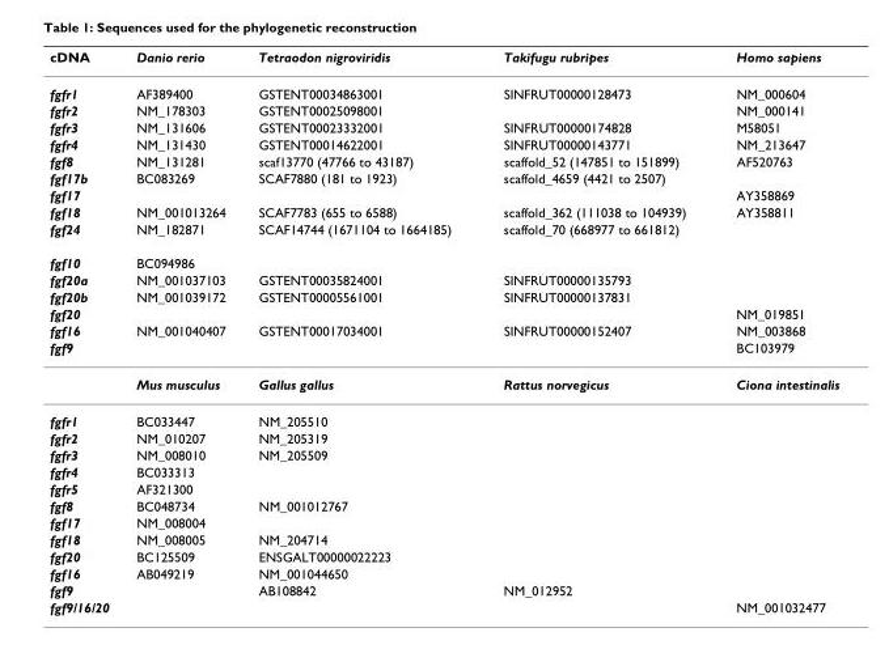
<table><thead><tr><td>cDNA</td><td>Danio rerio</td><td>Tetraodon nigroviridis</td><td>Takifugu rubripes</td><td>Homo sapiens</td></tr></thead><tbody><tr><td>fgfr1</td><td>AF389400</td><td>GSTENT00034863001</td><td>SINFRUT00000128473</td><td>NM_000604</td></tr><tr><td>fgfr2</td><td>NM_178303</td><td>GSTENT00025098001</td><td></td><td>NM_000141</td></tr><tr><td>fgfr3</td><td>NM_131606</td><td>GSTENT00023332001</td><td>SINFRUT00000174828</td><td>M58051</td></tr><tr><td>fgfr4</td><td>NM_131430</td><td>GSTENT00014622001</td><td>SINFRUT00000143771</td><td>NM_213647</td></tr><tr><td>fgf8</td><td>NM_131281</td><td>scaf13770 (47766 to 43187)</td><td>scaffold_52 (147851 to 151899)</td><td>AF520763</td></tr><tr><td>fgf17b</td><td>BC083269</td><td>SCAF7880 (181 to 1923)</td><td>scaffold_4659 (4421 to 2507)</td><td></td></tr><tr><td>fgf17</td><td></td><td></td><td></td><td>AY358869</td></tr><tr><td>fgf18</td><td>NM_001013264</td><td>SCAF7783 (655 to 6588)</td><td>scaffold_362 (111038 to 104939)</td><td>AY358811</td></tr><tr><td>fgf24</td><td>NM_182871</td><td>SCAF14744 (1671104 to 1664185)</td><td>scaffold_70 (668977 to 661812)</td><td></td></tr><tr><td>fgf10</td><td>BC094986</td><td></td><td></td><td></td></tr><tr><td>fgf20a</td><td>NM_001037103</td><td>GSTENT00035824001</td><td>SINFRUT00000135793</td><td></td></tr><tr><td>fgf20b</td><td>NM_001039172</td><td>GSTENT00005561001</td><td>SINFRUT00000137831</td><td></td></tr><tr><td>fgf20</td><td></td><td></td><td></td><td>NM_019851</td></tr><tr><td>fgf16</td><td>NM_001040407</td><td>GSTENT00017034001</td><td>SINFRUT00000152407</td><td>NM_003868</td></tr><tr><td rowspan="2">fgf9</td><td></td><td></td><td></td><td>BC103979</td></tr><tr><td>Mus musculus</td><td>Gallus gallus</td><td>Rattus norvegicus</td><td>Ciona intestinalis</td></tr><tr><td>fgfr1</td><td>BC033447</td><td>NM_205510</td><td></td><td></td></tr><tr><td>fgfr2</td><td>NM_010207</td><td>NM_205319</td><td></td><td></td></tr><tr><td>fgfr3</td><td>NM_008010</td><td>NM_205509</td><td></td><td></td></tr><tr><td>fgfr4</td><td>BC033313</td><td></td><td></td><td></td></tr><tr><td>fgfr5</td><td>AF321300</td><td></td><td></td><td></td></tr><tr><td>fgf8</td><td>BC048734</td><td>NM_001012767</td><td></td><td></td></tr><tr><td>fgf17</td><td>NM_008004</td><td></td><td></td><td></td></tr><tr><td>fgf18</td><td>NM_008005</td><td>NM_204714</td><td></td><td></td></tr><tr><td>fgf20</td><td>BC125509</td><td>ENSGALT00000022223</td><td></td><td></td></tr><tr><td>fgf16</td><td>AB049219</td><td>NM_001044650</td><td></td><td></td></tr><tr><td>fgf9</td><td></td><td>AB108842</td><td>NM_012952</td><td></td></tr><tr><td>fgf9/16/20</td><td></td><td></td><td></td><td>NM_001032477</td></tr></tbody></table>